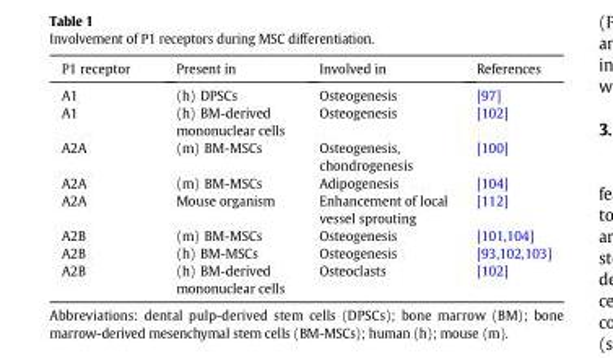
<table><thead><tr><td>P1 receptor</td><td>Present in</td><td>Involved in</td><td>References</td></tr></thead><tbody><tr><td>A1</td><td>(h) DPSCs</td><td>Osteogenesis</td><td>[97]</td></tr><tr><td>A1</td><td>(h) BM-derived mononuclear cells</td><td>Osteogenesis</td><td>[102]</td></tr><tr><td>A2A</td><td>(m) BM-MSCs</td><td>Osteogenesis, chondrogenesis</td><td>[100]</td></tr><tr><td>A2A</td><td>(m) BM-MSCs</td><td>Adipogenesis</td><td>[104]</td></tr><tr><td>A2A</td><td>Mouse organism</td><td>Enhancement of local vessel sprouting</td><td>[112]</td></tr><tr><td>A2B</td><td>(m) BM-MSCs</td><td>Osteogenesis</td><td>[101,104]</td></tr><tr><td>A2B</td><td>(h) BM-MSCs</td><td>Osteogenesis</td><td>[93,102,103]</td></tr><tr><td>A2B</td><td>(h) BM-derived mononuclear cells</td><td>Osteoclasts</td><td>[102]</td></tr></tbody></table>